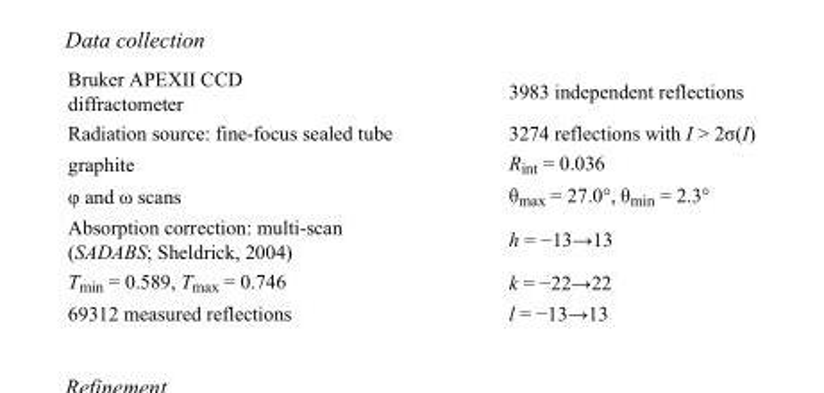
<table><tbody><tr><td>Bruker APEXII CCD diffractometer</td><td>3983 independent reflections</td></tr><tr><td>Radiation source: fine-focus sealed tube</td><td>3274 reflections with I &gt; 2σ(I)</td></tr><tr><td>graphite</td><td>R<sub>int</sub> = 0.036</td></tr><tr><td>φ and ω scans</td><td>θ<sub>max</sub> = 27.0°, θ<sub>min</sub> = 2.3°</td></tr><tr><td>Absorption correction: multi-scan (SADABS; Sheldrick, 2004)</td><td>h = −13→13</td></tr><tr><td>T<sub>min</sub> = 0.589, T<sub>max</sub> = 0.746</td><td>k = −22→22</td></tr><tr><td>69312 measured reflections</td><td>l = −13→13</td></tr></tbody></table>